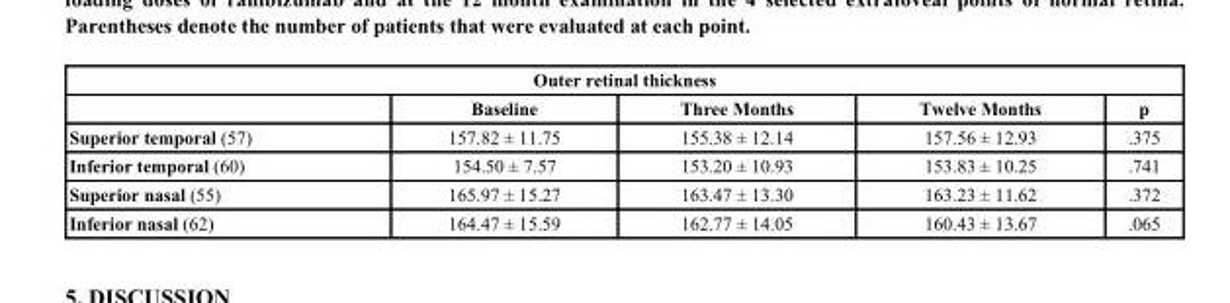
<table><thead><tr><td colspan="5">Outer retinal thickness</td></tr><tr><td></td><td>Baseline</td><td>Three Months</td><td>Twelve Months</td><td>p</td></tr></thead><tbody><tr><td>Superior temporal (57)</td><td>157.82 ± 11.75</td><td>155.38 ± 12.14</td><td>157.56 ± 12.93</td><td>.375</td></tr><tr><td>Inferior temporal (60)</td><td>154.50 ± 7.57</td><td>153.20 ± 10.93</td><td>153.83 ± 10.25</td><td>.741</td></tr><tr><td>Superior nasal (55)</td><td>165.97 ± 15.27</td><td>163.47 ± 13.30</td><td>163.23 ± 11.62</td><td>.372</td></tr><tr><td>Inferior nasal (62)</td><td>164.47 ± 15.59</td><td>162.77 ± 14.05</td><td>160.43 ± 13.67</td><td>.065</td></tr></tbody></table>